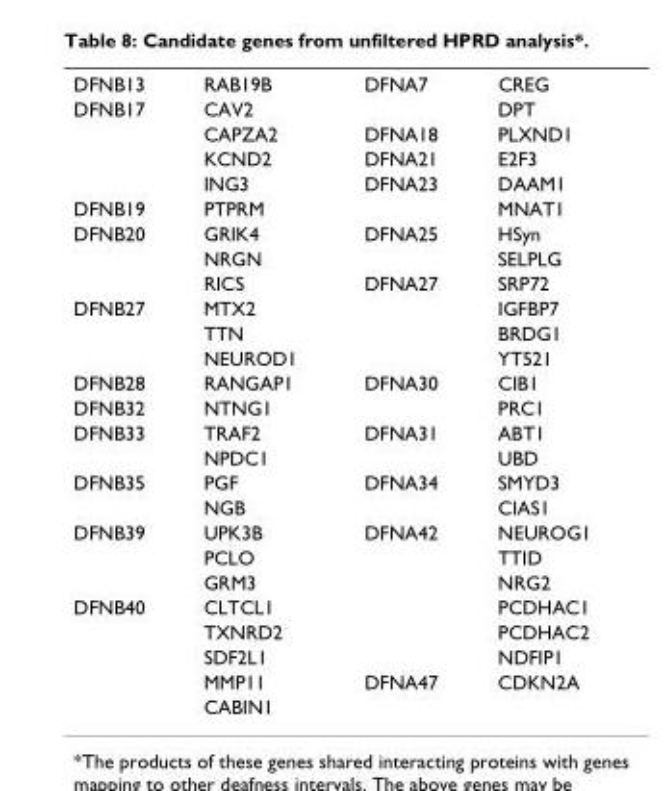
<table><tbody><tr><td>DFNB13</td><td>RAB19B</td><td>DFNA7</td><td>CREG</td></tr><tr><td rowspan="4">DFNB17</td><td>CAV2</td><td></td><td>DPT</td></tr><tr><td>CAPZA2</td><td>DFNA18</td><td>PLXND1</td></tr><tr><td>KCND2</td><td>DFNA21</td><td>E2F3</td></tr><tr><td>ING3</td><td>DFNA23</td><td>DAAM1</td></tr><tr><td>DFNB19</td><td>PTPRM</td><td></td><td>MNAT1</td></tr><tr><td rowspan="3">DFNB20</td><td>GRIK4</td><td>DFNA25</td><td>HSyn</td></tr><tr><td>NRGN</td><td></td><td>SELPLG</td></tr><tr><td>RICS</td><td>DFNA27</td><td>SRP72</td></tr><tr><td rowspan="3">DFNB27</td><td>MTX2</td><td></td><td>IGFBP7</td></tr><tr><td>TTN</td><td></td><td>BRDG1</td></tr><tr><td>NEUROD1</td><td></td><td>YT521</td></tr><tr><td>DFNB28</td><td>RANGAP1</td><td>DFNA30</td><td>CIB1</td></tr><tr><td>DFNB32</td><td>NTNG1</td><td></td><td>PRC1</td></tr><tr><td rowspan="2">DFNB33</td><td>TRAF2</td><td>DFNA31</td><td>ABT1</td></tr><tr><td>NPDC1</td><td></td><td>UBD</td></tr><tr><td rowspan="2">DFNB35</td><td>PGF</td><td>DFNA34</td><td>SMYD3</td></tr><tr><td>NGB</td><td></td><td>CIAS1</td></tr><tr><td rowspan="3">DFNB39</td><td>UPK3B</td><td>DFNA42</td><td>NEUROG1</td></tr><tr><td>PCLO</td><td></td><td>TTID</td></tr><tr><td>GRM3</td><td></td><td>NRG2</td></tr><tr><td rowspan="5">DFNB40</td><td>CLTCL1</td><td></td><td>PCDHAC1</td></tr><tr><td>TXNRD2</td><td></td><td>PCDHAC2</td></tr><tr><td>SDF2L1</td><td></td><td>NDFIP1</td></tr><tr><td>MMP11</td><td>DFNA47</td><td>CDKN2A</td></tr><tr><td>CABIN1</td><td></td><td></td></tr></tbody></table>